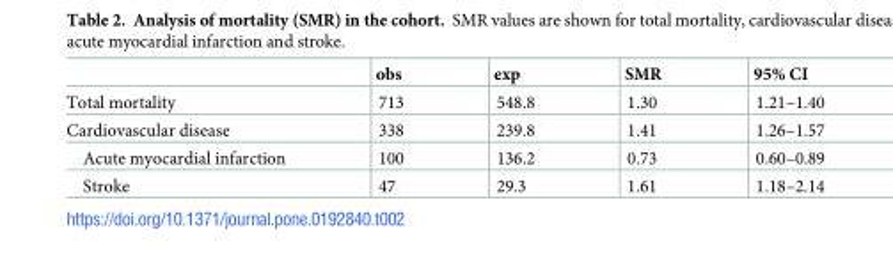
<table><thead><tr><td></td><td>obs</td><td>exp</td><td>SMR</td><td>95% CI</td></tr></thead><tbody><tr><td>Total mortality</td><td>713</td><td>548.8</td><td>1.30</td><td>1.21–1.40</td></tr><tr><td>Cardiovascular disease</td><td>338</td><td>239.8</td><td>1.41</td><td>1.26–1.57</td></tr><tr><td>Acute myocardial infarction</td><td>100</td><td>136.2</td><td>0.73</td><td>0.60–0.89</td></tr><tr><td>Stroke</td><td>47</td><td>29.3</td><td>1.61</td><td>1.18–2.14</td></tr></tbody></table>